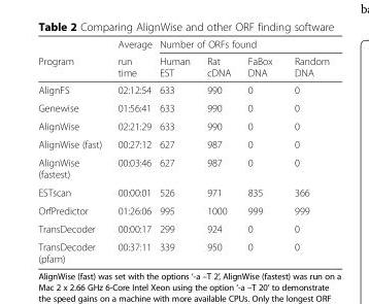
<table><thead><tr><td rowspan="2">Program</td><td rowspan="2">Average run time</td><td colspan="4">Number of ORFs found</td></tr><tr><td>Human EST</td><td>Rat cDNA</td><td>FaBox DNA</td><td>Random DNA</td></tr></thead><tbody><tr><td>AlignFS</td><td>02:12:54</td><td>633</td><td>990</td><td>0</td><td>0</td></tr><tr><td>Genewise</td><td>01:56:41</td><td>633</td><td>990</td><td>0</td><td>0</td></tr><tr><td>AlignWise</td><td>02:21:29</td><td>633</td><td>990</td><td>0</td><td>0</td></tr><tr><td>AlignWise (fast)</td><td>00:27:12</td><td>627</td><td>987</td><td>0</td><td>0</td></tr><tr><td>AlignWise (fastest)</td><td>00:03:46</td><td>627</td><td>987</td><td>0</td><td>0</td></tr><tr><td>ESTscan</td><td>00:00:01</td><td>526</td><td>971</td><td>835</td><td>366</td></tr><tr><td>OrfPredictor</td><td>01:26:06</td><td>995</td><td>1000</td><td>999</td><td>999</td></tr><tr><td>TransDecoder</td><td>00:00:17</td><td>299</td><td>924</td><td>0</td><td>0</td></tr><tr><td>TransDecoder (pfam)</td><td>00:37:11</td><td>339</td><td>950</td><td>0</td><td>0</td></tr></tbody></table>